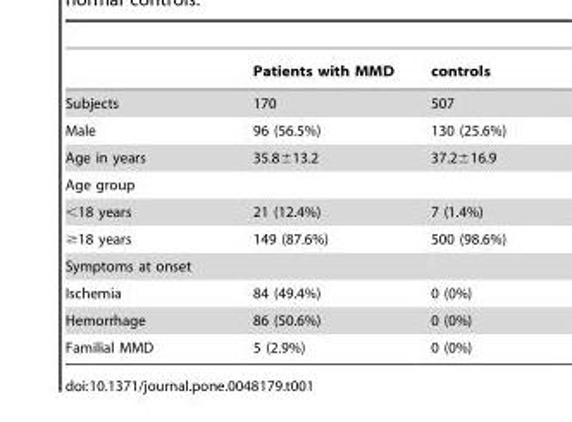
<table><thead><tr><td></td><td>Patients with MMD</td><td>controls</td></tr></thead><tbody><tr><td>Subjects</td><td>170</td><td>507</td></tr><tr><td>Male</td><td>96 (56.5%)</td><td>130 (25.6%)</td></tr><tr><td>Age in years</td><td>35.8±13.2</td><td>37.2±16.9</td></tr><tr><td colspan="3">Age group</td></tr><tr><td>&lt;18 years</td><td>21 (12.4%)</td><td>7 (1.4%)</td></tr><tr><td>≥18 years</td><td>149 (87.6%)</td><td>500 (98.6%)</td></tr><tr><td colspan="3">Symptoms at onset</td></tr><tr><td>Ischemia</td><td>84 (49.4%)</td><td>0 (0%)</td></tr><tr><td>Hemorrhage</td><td>86 (50.6%)</td><td>0 (0%)</td></tr><tr><td>Familial MMD</td><td>5 (2.9%)</td><td>0 (0%)</td></tr></tbody></table>